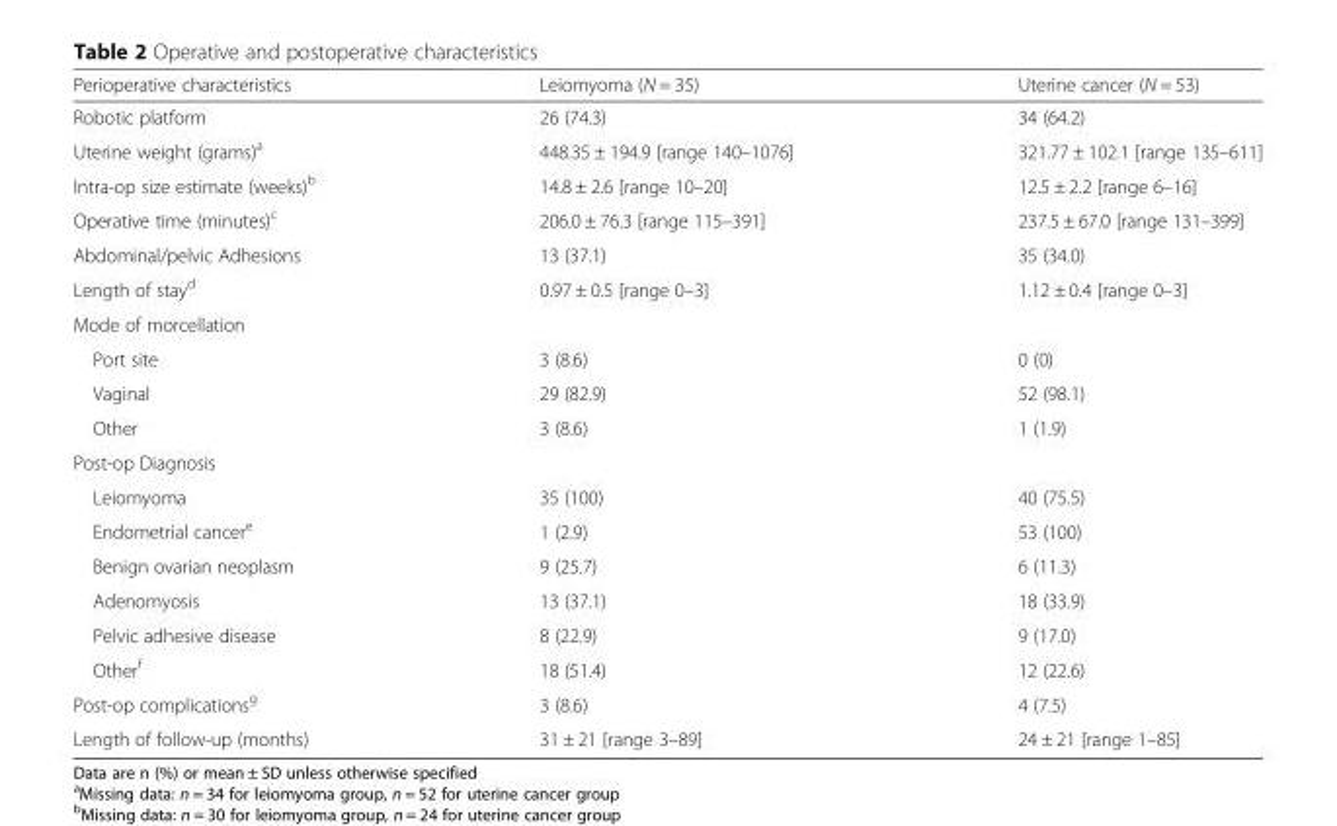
<table><thead><tr><td>Perioperative characteristics</td><td>Leiomyoma (N = 35)</td><td>Uterine cancer (N = 53)</td></tr></thead><tbody><tr><td>Robotic platform</td><td>26 (74.3)</td><td>34 (64.2)</td></tr><tr><td>Uterine weight (grams)<sup>a</sup></td><td>448.35 ± 194.9 [range 140–1076]</td><td>321.77 ± 102.1 [range 135–611]</td></tr><tr><td>Intra-op size estimate (weeks)<sup>b</sup></td><td>14.8 ± 2.6 [range 10–20]</td><td>12.5 ± 2.2 [range 6–16]</td></tr><tr><td>Operative time (minutes)<sup>c</sup></td><td>206.0 ± 76.3 [range 115–391]</td><td>237.5 ± 67.0 [range 131–399]</td></tr><tr><td>Abdominal/pelvic Adhesions</td><td>13 (37.1)</td><td>35 (34.0)</td></tr><tr><td>Length of stay<sup>d</sup></td><td>0.97 ± 0.5 [range 0–3]</td><td>1.12 ± 0.4 [range 0–3]</td></tr><tr><td colspan="3">Mode of morcellation</td></tr><tr><td>Port site</td><td>3 (8.6)</td><td>0 (0)</td></tr><tr><td>Vaginal</td><td>29 (82.9)</td><td>52 (98.1)</td></tr><tr><td>Other</td><td>3 (8.6)</td><td>1 (1.9)</td></tr><tr><td colspan="3">Post-op Diagnosis</td></tr><tr><td>Leiomyoma</td><td>35 (100)</td><td>40 (75.5)</td></tr><tr><td>Endometrial cancer<sup>e</sup></td><td>1 (2.9)</td><td>53 (100)</td></tr><tr><td>Benign ovarian neoplasm</td><td>9 (25.7)</td><td>6 (11.3)</td></tr><tr><td>Adenomyosis</td><td>13 (37.1)</td><td>18 (33.9)</td></tr><tr><td>Pelvic adhesive disease</td><td>8 (22.9)</td><td>9 (17.0)</td></tr><tr><td>Other<sup>f</sup></td><td>18 (51.4)</td><td>12 (22.6)</td></tr><tr><td>Post-op complications<sup>g</sup></td><td>3 (8.6)</td><td>4 (7.5)</td></tr><tr><td>Length of follow-up (months)</td><td>31 ± 21 [range 3–89]</td><td>24 ± 21 [range 1–85]</td></tr></tbody></table>